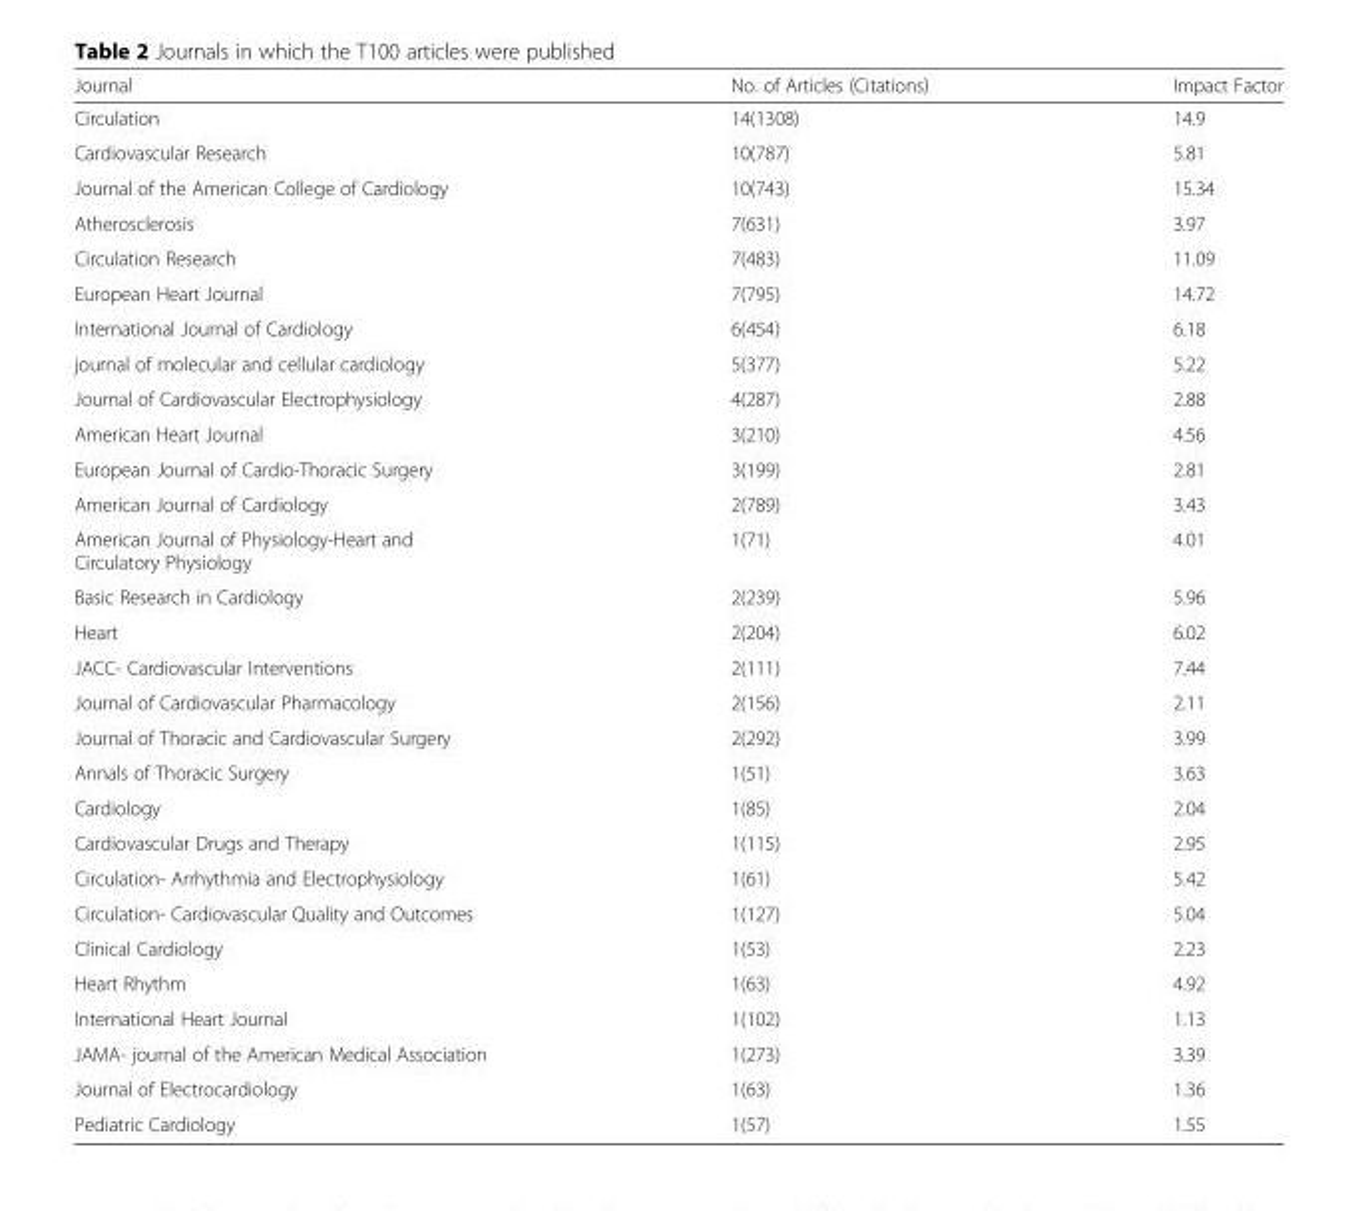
<table><thead><tr><td>Journal</td><td>No. of Articles (Citations)</td><td>Impact Factor</td></tr></thead><tbody><tr><td>Circulation</td><td>14(1308)</td><td>14.9</td></tr><tr><td>Cardiovascular Research</td><td>10(787)</td><td>5.81</td></tr><tr><td>Journal of the American College of Cardiology</td><td>10(743)</td><td>15.34</td></tr><tr><td>Atherosclerosis</td><td>7(631)</td><td>3.97</td></tr><tr><td>Circulation Research</td><td>7(483)</td><td>11.09</td></tr><tr><td>European Heart Journal</td><td>7(795)</td><td>14.72</td></tr><tr><td>International Journal of Cardiology</td><td>6(454)</td><td>6.18</td></tr><tr><td>journal of molecular and cellular cardiology</td><td>5(377)</td><td>5.22</td></tr><tr><td>Journal of Cardiovascular Electrophysiology</td><td>4(287)</td><td>2.88</td></tr><tr><td>American Heart Journal</td><td>3(210)</td><td>4.56</td></tr><tr><td>European Journal of Cardio-Thoracic Surgery</td><td>3(199)</td><td>2.81</td></tr><tr><td>American Journal of Cardiology</td><td>2(789)</td><td>3.43</td></tr><tr><td>American Journal of Physiology-Heart and Circulatory Physiology</td><td>1(71)</td><td>4.01</td></tr><tr><td>Basic Research in Cardiology</td><td>2(239)</td><td>5.96</td></tr><tr><td>Heart</td><td>2(204)</td><td>6.02</td></tr><tr><td>JACC- Cardiovascular Interventions</td><td>2(111)</td><td>7.44</td></tr><tr><td>Journal of Cardiovascular Pharmacology</td><td>2(156)</td><td>2.11</td></tr><tr><td>Journal of Thoracic and Cardiovascular Surgery</td><td>2(292)</td><td>3.99</td></tr><tr><td>Annals of Thoracic Surgery</td><td>1(51)</td><td>3.63</td></tr><tr><td>Cardiology</td><td>1(85)</td><td>2.04</td></tr><tr><td>Cardiovascular Drugs and Therapy</td><td>1(115)</td><td>2.95</td></tr><tr><td>Circulation- Arrhythmia and Electrophysiology</td><td>1(61)</td><td>5.42</td></tr><tr><td>Circulation- Cardiovascular Quality and Outcomes</td><td>1(127)</td><td>5.04</td></tr><tr><td>Clinical Cardiology</td><td>1(53)</td><td>2.23</td></tr><tr><td>Heart Rhythm</td><td>1(63)</td><td>4.92</td></tr><tr><td>International Heart Journal</td><td>1(102)</td><td>1.13</td></tr><tr><td>JAMA- journal of the American Medical Association</td><td>1(273)</td><td>3.39</td></tr><tr><td>Journal of Electrocardiology</td><td>1(63)</td><td>1.36</td></tr><tr><td>Pediatric Cardiology</td><td>1(57)</td><td>1.55</td></tr></tbody></table>